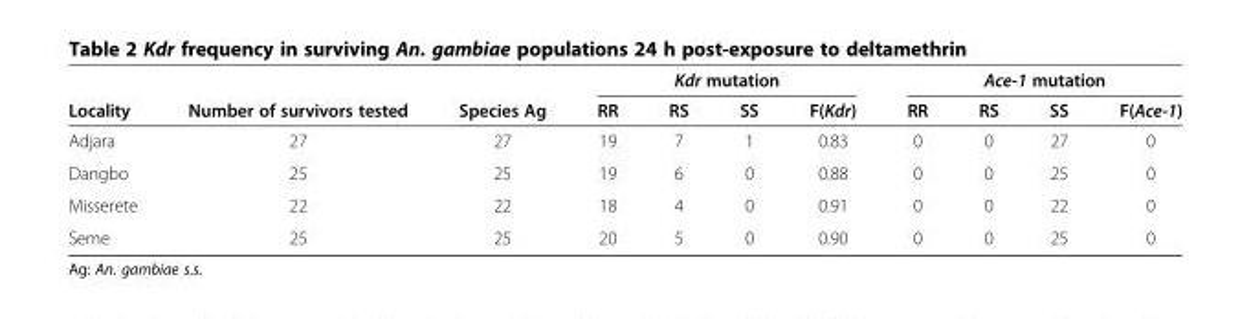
<table><thead><tr><td rowspan="2">Locality</td><td rowspan="2">Number of survivors tested</td><td rowspan="2">Species Ag</td><td colspan="4">Kdr mutation</td><td colspan="4">Ace-1 mutation</td></tr><tr><td>RR</td><td>RS</td><td>SS</td><td>F(Kdr)</td><td>RR</td><td>RS</td><td>SS</td><td>F(Ace-1)</td></tr></thead><tbody><tr><td>Adjara</td><td>27</td><td>27</td><td>19</td><td>7</td><td>1</td><td>0.83</td><td>0</td><td>0</td><td>27</td><td>0</td></tr><tr><td>Dangbo</td><td>25</td><td>25</td><td>19</td><td>6</td><td>0</td><td>0.88</td><td>0</td><td>0</td><td>25</td><td>0</td></tr><tr><td>Misserete</td><td>22</td><td>22</td><td>18</td><td>4</td><td>0</td><td>0.91</td><td>0</td><td>0</td><td>22</td><td>0</td></tr><tr><td>Seme</td><td>25</td><td>25</td><td>20</td><td>5</td><td>0</td><td>0.90</td><td>0</td><td>0</td><td>25</td><td>0</td></tr></tbody></table>